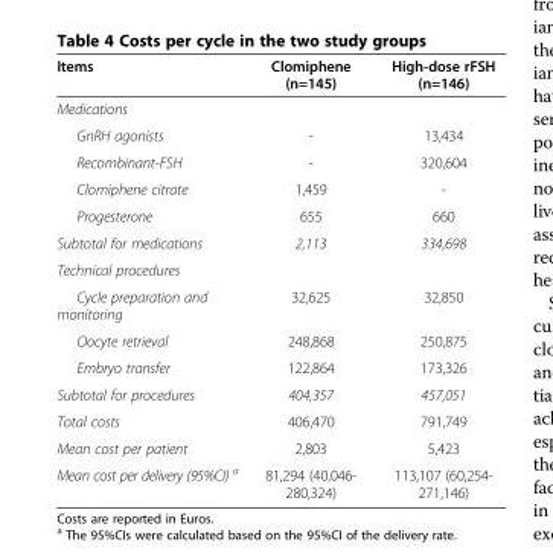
<table><thead><tr><td>Items</td><td>Clomiphene (n=145)</td><td>High-dose rFSH (n=146)</td></tr></thead><tbody><tr><td colspan="3">Medications</td></tr><tr><td>GnRH agonists</td><td>-</td><td>13,434</td></tr><tr><td>Recombinant-FSH</td><td>-</td><td>320,604</td></tr><tr><td>Clomiphene citrate</td><td>1,459</td><td>-</td></tr><tr><td>Progesterone</td><td>655</td><td>660</td></tr><tr><td>Subtotal for medications</td><td>2,113</td><td>334,698</td></tr><tr><td colspan="3">Technical procedures</td></tr><tr><td>Cycle preparation and monitoring</td><td>32,625</td><td>32,850</td></tr><tr><td>Oocyte retrieval</td><td>248,868</td><td>250,875</td></tr><tr><td>Embryo transfer</td><td>122,864</td><td>173,326</td></tr><tr><td>Subtotal for procedures</td><td>404,357</td><td>457,051</td></tr><tr><td>Total costs</td><td>406,470</td><td>791,749</td></tr><tr><td>Mean cost per patient</td><td>2,803</td><td>5,423</td></tr><tr><td>Mean cost per delivery (95%CI) <sup>a</sup></td><td>81,294 (40,046- 280,324)</td><td>113,107 (60,254- 271,146)</td></tr></tbody></table>